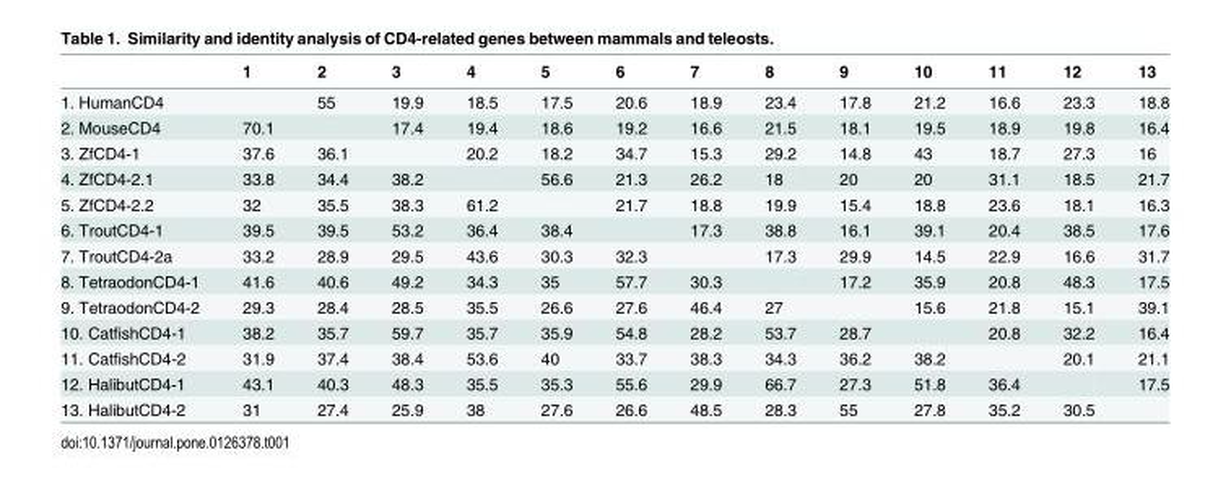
<table><thead><tr><td></td><td>1</td><td>2</td><td>3</td><td>4</td><td>5</td><td>6</td><td>7</td><td>8</td><td>9</td><td>10</td><td>11</td><td>12</td><td>13</td></tr></thead><tbody><tr><td>1. HumanCD4</td><td></td><td>55</td><td>19.9</td><td>18.5</td><td>17.5</td><td>20.6</td><td>18.9</td><td>23.4</td><td>17.8</td><td>21.2</td><td>16.6</td><td>23.3</td><td>18.8</td></tr><tr><td>2. MouseCD4</td><td>70.1</td><td></td><td>17.4</td><td>19.4</td><td>18.6</td><td>19.2</td><td>16.6</td><td>21.5</td><td>18.1</td><td>19.5</td><td>18.9</td><td>19.8</td><td>16.4</td></tr><tr><td>3. ZfCD4-1</td><td>37.6</td><td>36.1</td><td></td><td>20.2</td><td>18.2</td><td>34.7</td><td>15.3</td><td>29.2</td><td>14.8</td><td>43</td><td>18.7</td><td>27.3</td><td>16</td></tr><tr><td>4. ZfCD4-2.1</td><td>33.8</td><td>34.4</td><td>38.2</td><td></td><td>56.6</td><td>21.3</td><td>26.2</td><td>18</td><td>20</td><td>20</td><td>31.1</td><td>18.5</td><td>21.7</td></tr><tr><td>5. ZfCD4-2.2</td><td>32</td><td>35.5</td><td>38.3</td><td>61.2</td><td></td><td>21.7</td><td>18.8</td><td>19.9</td><td>15.4</td><td>18.8</td><td>23.6</td><td>18.1</td><td>16.3</td></tr><tr><td>6. TroutCD4-1</td><td>39.5</td><td>39.5</td><td>53.2</td><td>36.4</td><td>38.4</td><td></td><td>17.3</td><td>38.8</td><td>16.1</td><td>39.1</td><td>20.4</td><td>38.5</td><td>17.6</td></tr><tr><td>7. TroutCD4-2a</td><td>33.2</td><td>28.9</td><td>29.5</td><td>43.6</td><td>30.3</td><td>32.3</td><td></td><td>17.3</td><td>29.9</td><td>14.5</td><td>22.9</td><td>16.6</td><td>31.7</td></tr><tr><td>8. TetraodonCD4-1</td><td>41.6</td><td>40.6</td><td>49.2</td><td>34.3</td><td>35</td><td>57.7</td><td>30.3</td><td></td><td>17.2</td><td>35.9</td><td>20.8</td><td>48.3</td><td>17.5</td></tr><tr><td>9. TetraodonCD4-2</td><td>29.3</td><td>28.4</td><td>28.5</td><td>35.5</td><td>26.6</td><td>27.6</td><td>46.4</td><td>27</td><td></td><td>15.6</td><td>21.8</td><td>15.1</td><td>39.1</td></tr><tr><td>10. CatfishCD4-1</td><td>38.2</td><td>35.7</td><td>59.7</td><td>35.7</td><td>35.9</td><td>54.8</td><td>28.2</td><td>53.7</td><td>28.7</td><td></td><td>20.8</td><td>32.2</td><td>16.4</td></tr><tr><td>11. CatfishCD4-2</td><td>31.9</td><td>37.4</td><td>38.4</td><td>53.6</td><td>40</td><td>33.7</td><td>38.3</td><td>34.3</td><td>36.2</td><td>38.2</td><td></td><td>20.1</td><td>21.1</td></tr><tr><td>12. HalibutCD4-1</td><td>43.1</td><td>40.3</td><td>48.3</td><td>35.5</td><td>35.3</td><td>55.6</td><td>29.9</td><td>66.7</td><td>27.3</td><td>51.8</td><td>36.4</td><td></td><td>17.5</td></tr><tr><td>13. HalibutCD4-2</td><td>31</td><td>27.4</td><td>25.9</td><td>38</td><td>27.6</td><td>26.6</td><td>48.5</td><td>28.3</td><td>55</td><td>27.8</td><td>35.2</td><td>30.5</td><td></td></tr></tbody></table>